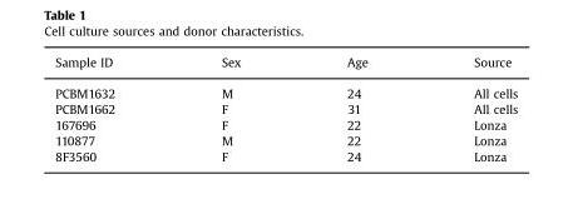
<table><thead><tr><td>Sample ID</td><td>Sex</td><td>Age</td><td>Source</td></tr></thead><tbody><tr><td>PCBM1632</td><td>M</td><td>24</td><td>All cells</td></tr><tr><td>PCBM1662</td><td>F</td><td>31</td><td>All cells</td></tr><tr><td>167696</td><td>F</td><td>22</td><td>Lonza</td></tr><tr><td>110877</td><td>M</td><td>22</td><td>Lonza</td></tr><tr><td>8F3560</td><td>F</td><td>24</td><td>Lonza</td></tr></tbody></table>